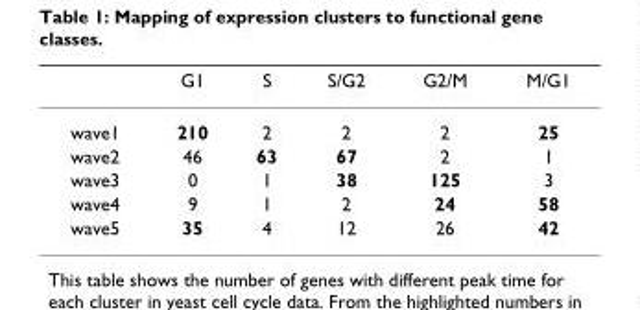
<table><thead><tr><td></td><td>G1</td><td>S</td><td>S/G2</td><td>G2/M</td><td>M/G1</td></tr></thead><tbody><tr><td>wave1</td><td>210</td><td>2</td><td>2</td><td>2</td><td>25</td></tr><tr><td>wave2</td><td>46</td><td>63</td><td>67</td><td>2</td><td>1</td></tr><tr><td>wave3</td><td>0</td><td>1</td><td>38</td><td>125</td><td>3</td></tr><tr><td>wave4</td><td>9</td><td>1</td><td>2</td><td>24</td><td>58</td></tr><tr><td>wave5</td><td>35</td><td>4</td><td>12</td><td>26</td><td>42</td></tr></tbody></table>